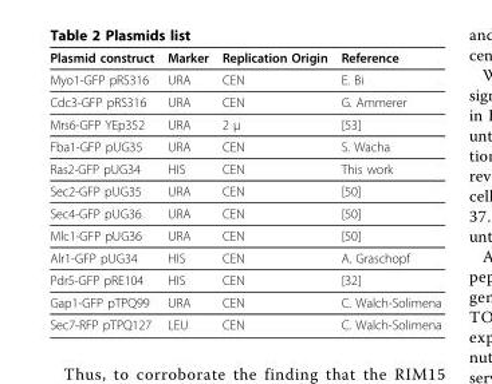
<table><thead><tr><td>Plasmid construct</td><td>Marker</td><td>Replication Origin</td><td>Reference</td></tr></thead><tbody><tr><td>Myo1-GFP pRS316</td><td>URA</td><td>CEN</td><td>E. Bi</td></tr><tr><td>Cdc3-GFP pRS316</td><td>URA</td><td>CEN</td><td>G. Ammerer</td></tr><tr><td>Mrs6-GFP YEp352</td><td>URA</td><td>2 μ</td><td>[53]</td></tr><tr><td>Fba1-GFP pUG35</td><td>URA</td><td>CEN</td><td>S. Wacha</td></tr><tr><td>Ras2-GFP pUG34</td><td>HIS</td><td>CEN</td><td>This work</td></tr><tr><td>Sec2-GFP pUG35</td><td>URA</td><td>CEN</td><td>[50]</td></tr><tr><td>Sec4-GFP pUG36</td><td>URA</td><td>CEN</td><td>[50]</td></tr><tr><td>Mlc1-GFP pUG36</td><td>URA</td><td>CEN</td><td>[50]</td></tr><tr><td>Alr1-GFP pUG34</td><td>HIS</td><td>CEN</td><td>A. Graschopf</td></tr><tr><td>Pdr5-GFP pRE104</td><td>HIS</td><td>CEN</td><td>[32]</td></tr><tr><td>Gap1-GFP pTPQ99</td><td>URA</td><td>CEN</td><td>C. Walch-Solimena</td></tr><tr><td>Sec7-RFP pTPQ127</td><td>LEU</td><td>CEN</td><td>C. Walch-Solimena</td></tr></tbody></table>